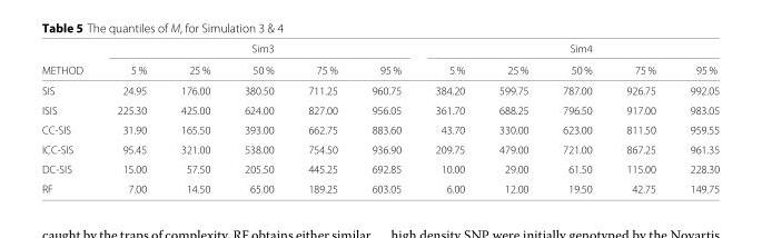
<table><thead><tr><td rowspan="2">METHOD</td><td rowspan="2">5 %</td><td rowspan="2">25 %</td><td rowspan="2">Sim3 50 %</td><td rowspan="2">75 %</td><td rowspan="2">95 %</td><td rowspan="2">5 %</td><td rowspan="2">25 %</td><td rowspan="2">Sim4 50 %</td><td rowspan="2">75 %</td><td rowspan="2">95 %</td></tr><tr></tr></thead><tbody><tr><td>SIS</td><td>24.95</td><td>176.00</td><td>380.50</td><td>711.25</td><td>960.75</td><td>384.20</td><td>599.75</td><td>787.00</td><td>926.75</td><td>992.05</td></tr><tr><td>ISIS</td><td>225.30</td><td>425.00</td><td>624.00</td><td>827.00</td><td>956.05</td><td>361.70</td><td>688.25</td><td>796.50</td><td>917.00</td><td>983.05</td></tr><tr><td>CC-SIS</td><td>31.90</td><td>165.50</td><td>393.00</td><td>662.75</td><td>883.60</td><td>43.70</td><td>330.00</td><td>623.00</td><td>811.50</td><td>959.55</td></tr><tr><td>ICC-SIS</td><td>95.45</td><td>321.00</td><td>538.00</td><td>754.50</td><td>936.90</td><td>209.75</td><td>479.00</td><td>721.00</td><td>867.25</td><td>961.35</td></tr><tr><td>DC-SIS</td><td>15.00</td><td>57.50</td><td>205.50</td><td>445.25</td><td>692.85</td><td>10.00</td><td>29.00</td><td>61.50</td><td>115.00</td><td>228.30</td></tr><tr><td>RF</td><td>7.00</td><td>14.50</td><td>65.00</td><td>189.25</td><td>603.05</td><td>6.00</td><td>12.00</td><td>19.50</td><td>42.75</td><td>149.75</td></tr></tbody></table>